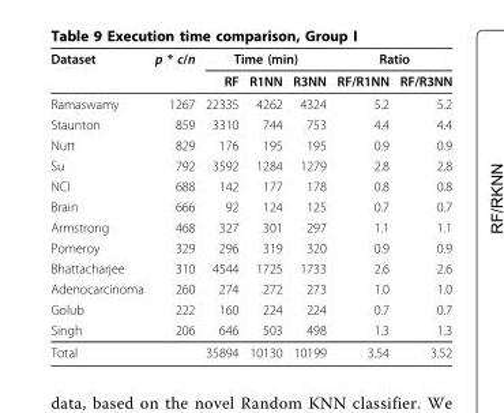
<table><thead><tr><td rowspan="2">Dataset</td><td rowspan="2">p * c/n</td><td colspan="3">Time (min)</td><td colspan="2">Ratio</td></tr><tr><td>RF</td><td>R1NN</td><td>R3NN</td><td>RF/R1NN</td><td>RF/R3NN</td></tr></thead><tbody><tr><td>Ramaswamy</td><td>1267</td><td>22335</td><td>4262</td><td>4324</td><td>5.2</td><td>5.2</td></tr><tr><td>Staunton</td><td>859</td><td>3310</td><td>744</td><td>753</td><td>4.4</td><td>4.4</td></tr><tr><td>Nutt</td><td>829</td><td>176</td><td>195</td><td>195</td><td>0.9</td><td>0.9</td></tr><tr><td>Su</td><td>792</td><td>3592</td><td>1284</td><td>1279</td><td>2.8</td><td>2.8</td></tr><tr><td>NCI</td><td>688</td><td>142</td><td>177</td><td>178</td><td>0.8</td><td>0.8</td></tr><tr><td>Brain</td><td>666</td><td>92</td><td>124</td><td>125</td><td>0.7</td><td>0.7</td></tr><tr><td>Armstrong</td><td>468</td><td>327</td><td>301</td><td>297</td><td>1.1</td><td>1.1</td></tr><tr><td>Pomeroy</td><td>329</td><td>296</td><td>319</td><td>320</td><td>0.9</td><td>0.9</td></tr><tr><td>Bhattacharjee</td><td>310</td><td>4544</td><td>1725</td><td>1733</td><td>2.6</td><td>2.6</td></tr><tr><td>Adenocarcinoma</td><td>260</td><td>274</td><td>272</td><td>273</td><td>1.0</td><td>1.0</td></tr><tr><td>Golub</td><td>222</td><td>160</td><td>224</td><td>224</td><td>0.7</td><td>0.7</td></tr><tr><td>Singh</td><td>206</td><td>646</td><td>503</td><td>498</td><td>1.3</td><td>1.3</td></tr><tr><td>Total</td><td></td><td>35894</td><td>10130</td><td>10199</td><td>3.54</td><td>3.52</td></tr></tbody></table>